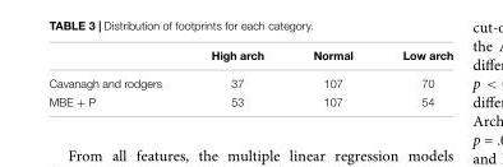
<table><thead><tr><td></td><td>High arch</td><td>Normal</td><td>Low arch</td></tr></thead><tbody><tr><td>Cavanagh and rodgers</td><td>37</td><td>107</td><td>70</td></tr><tr><td>MBE + P</td><td>53</td><td>107</td><td>54</td></tr></tbody></table>